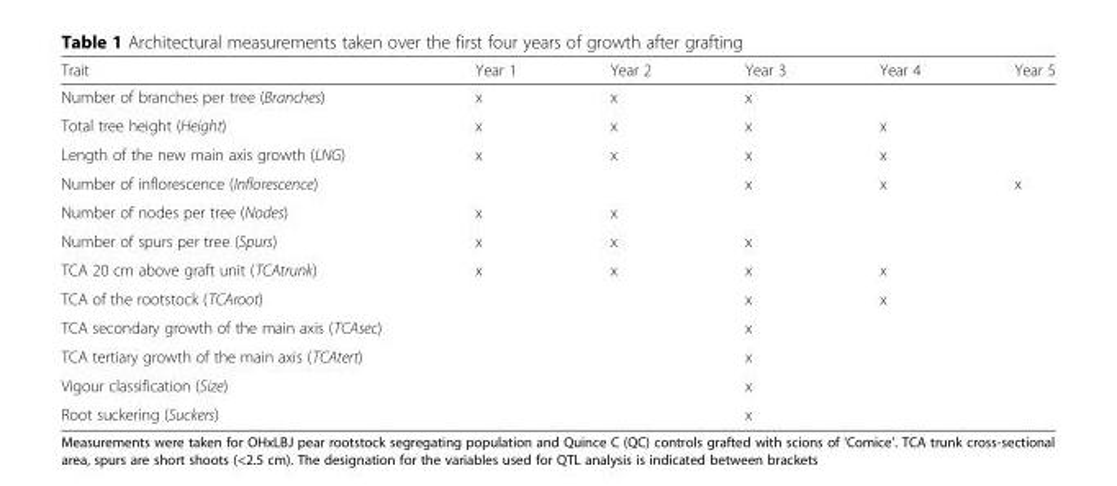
<table><thead><tr><td>Trait</td><td>Year 1</td><td>Year 2</td><td>Year 3</td><td>Year 4</td><td>Year 5</td></tr></thead><tbody><tr><td>Number of branches per tree (Branches)</td><td>x</td><td>x</td><td>x</td><td></td><td></td></tr><tr><td>Total tree height (Height)</td><td>x</td><td>x</td><td>x</td><td>x</td><td></td></tr><tr><td>Length of the new main axis growth (LNG)</td><td>x</td><td>x</td><td>x</td><td>x</td><td></td></tr><tr><td>Number of inflorescence (Inflorescence)</td><td></td><td></td><td>x</td><td>x</td><td>x</td></tr><tr><td>Number of nodes per tree (Nodes)</td><td>x</td><td>x</td><td></td><td></td><td></td></tr><tr><td>Number of spurs per tree (Spurs)</td><td>x</td><td>x</td><td>x</td><td></td><td></td></tr><tr><td>TCA 20 cm above graft unit (TCAtrunk)</td><td>x</td><td>x</td><td>x</td><td>x</td><td></td></tr><tr><td>TCA of the rootstock (TCAroot)</td><td></td><td></td><td>x</td><td>x</td><td></td></tr><tr><td>TCA secondary growth of the main axis (TCAsec)</td><td></td><td></td><td>x</td><td></td><td></td></tr><tr><td>TCA tertiary growth of the main axis (TCAtert)</td><td></td><td></td><td>x</td><td></td><td></td></tr><tr><td>Vigour classification (Size)</td><td></td><td></td><td>x</td><td></td><td></td></tr><tr><td>Root suckering (Suckers)</td><td></td><td></td><td>x</td><td></td><td></td></tr></tbody></table>